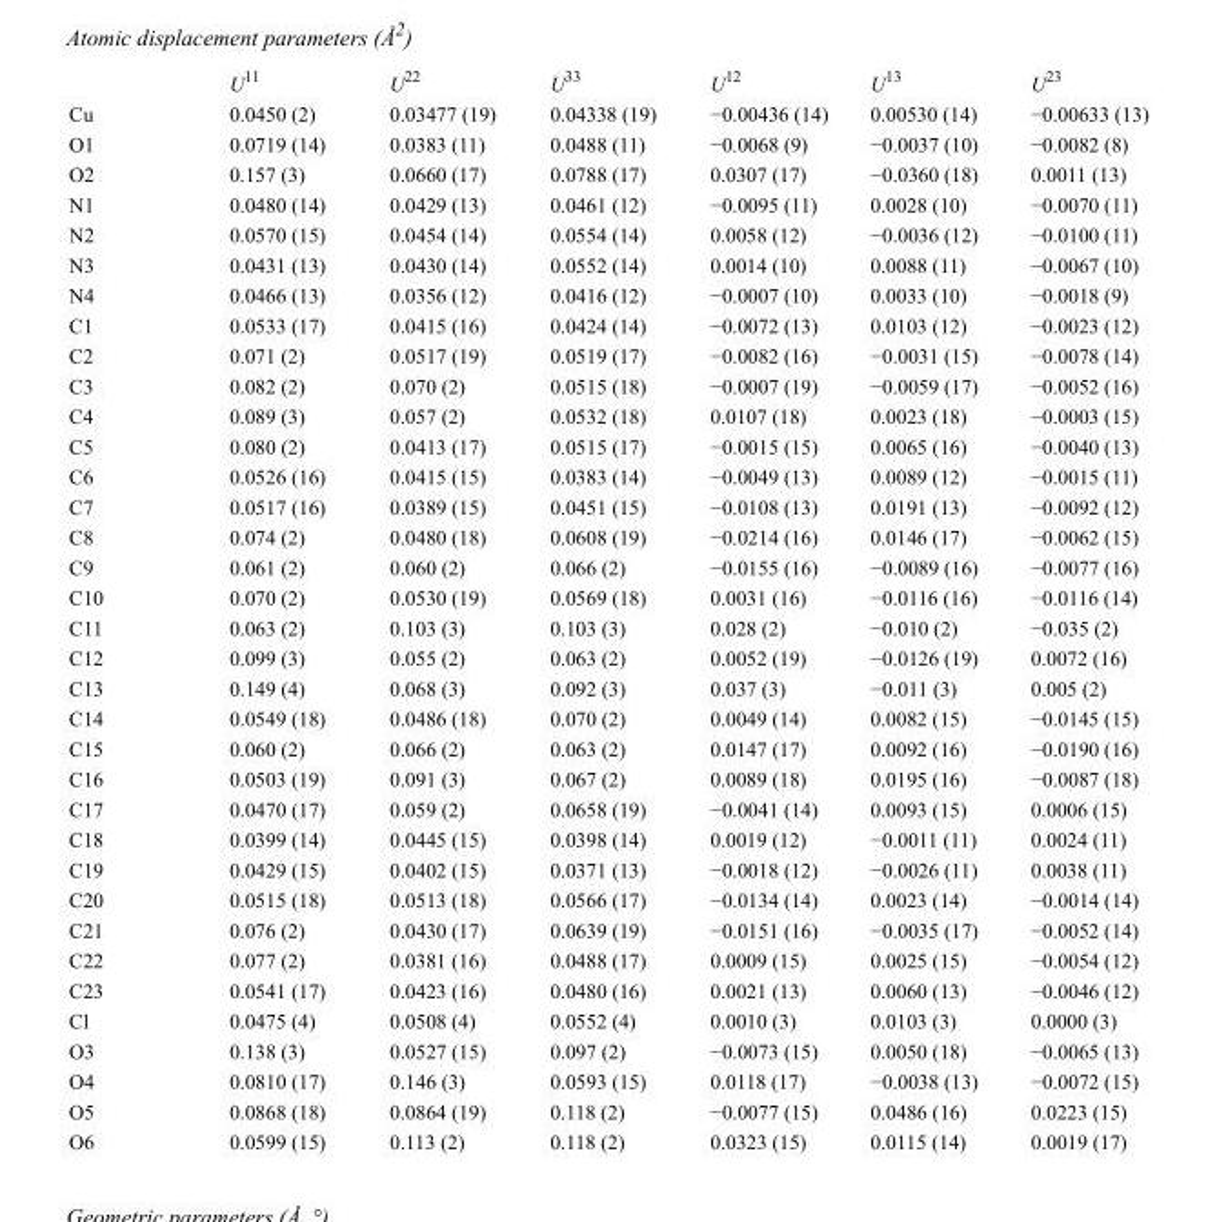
<table><thead><tr><td></td><td>U<sup>11</sup></td><td>U<sup>22</sup></td><td>U<sup>33</sup></td><td>U<sup>12</sup></td><td>U<sup>13</sup></td><td>U<sup>23</sup></td></tr></thead><tbody><tr><td>Cu</td><td>0.0450 (2)</td><td>0.03477 (19)</td><td>0.04338 (19)</td><td>−0.00436 (14)</td><td>0.00530 (14)</td><td>−0.00633 (13)</td></tr><tr><td>O1</td><td>0.0719 (14)</td><td>0.0383 (11)</td><td>0.0488 (11)</td><td>−0.0068 (9)</td><td>−0.0037 (10)</td><td>−0.0082 (8)</td></tr><tr><td>O2</td><td>0.157 (3)</td><td>0.0660 (17)</td><td>0.0788 (17)</td><td>0.0307 (17)</td><td>−0.0360 (18)</td><td>0.0011 (13)</td></tr><tr><td>N1</td><td>0.0480 (14)</td><td>0.0429 (13)</td><td>0.0461 (12)</td><td>−0.0095 (11)</td><td>0.0028 (10)</td><td>−0.0070 (11)</td></tr><tr><td>N2</td><td>0.0570 (15)</td><td>0.0454 (14)</td><td>0.0554 (14)</td><td>0.0058 (12)</td><td>−0.0036 (12)</td><td>−0.0100 (11)</td></tr><tr><td>N3</td><td>0.0431 (13)</td><td>0.0430 (14)</td><td>0.0552 (14)</td><td>0.0014 (10)</td><td>0.0088 (11)</td><td>−0.0067 (10)</td></tr><tr><td>N4</td><td>0.0466 (13)</td><td>0.0356 (12)</td><td>0.0416 (12)</td><td>−0.0007 (10)</td><td>0.0033 (10)</td><td>−0.0018 (9)</td></tr><tr><td>C1</td><td>0.0533 (17)</td><td>0.0415 (16)</td><td>0.0424 (14)</td><td>−0.0072 (13)</td><td>0.0103 (12)</td><td>−0.0023 (12)</td></tr><tr><td>C2</td><td>0.071 (2)</td><td>0.0517 (19)</td><td>0.0519 (17)</td><td>−0.0082 (16)</td><td>−0.0031 (15)</td><td>−0.0078 (14)</td></tr><tr><td>C3</td><td>0.082 (2)</td><td>0.070 (2)</td><td>0.0515 (18)</td><td>−0.0007 (19)</td><td>−0.0059 (17)</td><td>−0.0052 (16)</td></tr><tr><td>C4</td><td>0.089 (3)</td><td>0.057 (2)</td><td>0.0532 (18)</td><td>0.0107 (18)</td><td>0.0023 (18)</td><td>−0.0003 (15)</td></tr><tr><td>C5</td><td>0.080 (2)</td><td>0.0413 (17)</td><td>0.0515 (17)</td><td>−0.0015 (15)</td><td>0.0065 (16)</td><td>−0.0040 (13)</td></tr><tr><td>C6</td><td>0.0526 (16)</td><td>0.0415 (15)</td><td>0.0383 (14)</td><td>−0.0049 (13)</td><td>0.0089 (12)</td><td>−0.0015 (11)</td></tr><tr><td>C7</td><td>0.0517 (16)</td><td>0.0389 (15)</td><td>0.0451 (15)</td><td>−0.0108 (13)</td><td>0.0191 (13)</td><td>−0.0092 (12)</td></tr><tr><td>C8</td><td>0.074 (2)</td><td>0.0480 (18)</td><td>0.0608 (19)</td><td>−0.0214 (16)</td><td>0.0146 (17)</td><td>−0.0062 (15)</td></tr><tr><td>C9</td><td>0.061 (2)</td><td>0.060 (2)</td><td>0.066 (2)</td><td>−0.0155 (16)</td><td>−0.0089 (16)</td><td>−0.0077 (16)</td></tr><tr><td>C10</td><td>0.070 (2)</td><td>0.0530 (19)</td><td>0.0569 (18)</td><td>0.0031 (16)</td><td>−0.0116 (16)</td><td>−0.0116 (14)</td></tr><tr><td>C11</td><td>0.063 (2)</td><td>0.103 (3)</td><td>0.103 (3)</td><td>0.028 (2)</td><td>−0.010 (2)</td><td>−0.035 (2)</td></tr><tr><td>C12</td><td>0.099 (3)</td><td>0.055 (2)</td><td>0.063 (2)</td><td>0.0052 (19)</td><td>−0.0126 (19)</td><td>0.0072 (16)</td></tr><tr><td>C13</td><td>0.149 (4)</td><td>0.068 (3)</td><td>0.092 (3)</td><td>0.037 (3)</td><td>−0.011 (3)</td><td>0.005 (2)</td></tr><tr><td>C14</td><td>0.0549 (18)</td><td>0.0486 (18)</td><td>0.070 (2)</td><td>0.0049 (14)</td><td>0.0082 (15)</td><td>−0.0145 (15)</td></tr><tr><td>C15</td><td>0.060 (2)</td><td>0.066 (2)</td><td>0.063 (2)</td><td>0.0147 (17)</td><td>0.0092 (16)</td><td>−0.0190 (16)</td></tr><tr><td>C16</td><td>0.0503 (19)</td><td>0.091 (3)</td><td>0.067 (2)</td><td>0.0089 (18)</td><td>0.0195 (16)</td><td>−0.0087 (18)</td></tr><tr><td>C17</td><td>0.0470 (17)</td><td>0.059 (2)</td><td>0.0658 (19)</td><td>−0.0041 (14)</td><td>0.0093 (15)</td><td>0.0006 (15)</td></tr><tr><td>C18</td><td>0.0399 (14)</td><td>0.0445 (15)</td><td>0.0398 (14)</td><td>0.0019 (12)</td><td>−0.0011 (11)</td><td>0.0024 (11)</td></tr><tr><td>C19</td><td>0.0429 (15)</td><td>0.0402 (15)</td><td>0.0371 (13)</td><td>−0.0018 (12)</td><td>−0.0026 (11)</td><td>0.0038 (11)</td></tr><tr><td>C20</td><td>0.0515 (18)</td><td>0.0513 (18)</td><td>0.0566 (17)</td><td>−0.0134 (14)</td><td>0.0023 (14)</td><td>−0.0014 (14)</td></tr><tr><td>C21</td><td>0.076 (2)</td><td>0.0430 (17)</td><td>0.0639 (19)</td><td>−0.0151 (16)</td><td>−0.0035 (17)</td><td>−0.0052 (14)</td></tr><tr><td>C22</td><td>0.077 (2)</td><td>0.0381 (16)</td><td>0.0488 (17)</td><td>0.0009 (15)</td><td>0.0025 (15)</td><td>−0.0054 (12)</td></tr><tr><td>C23</td><td>0.0541 (17)</td><td>0.0423 (16)</td><td>0.0480 (16)</td><td>0.0021 (13)</td><td>0.0060 (13)</td><td>−0.0046 (12)</td></tr><tr><td>Cl</td><td>0.0475 (4)</td><td>0.0508 (4)</td><td>0.0552 (4)</td><td>0.0010 (3)</td><td>0.0103 (3)</td><td>0.0000 (3)</td></tr><tr><td>O3</td><td>0.138 (3)</td><td>0.0527 (15)</td><td>0.097 (2)</td><td>−0.0073 (15)</td><td>0.0050 (18)</td><td>−0.0065 (13)</td></tr><tr><td>O4</td><td>0.0810 (17)</td><td>0.146 (3)</td><td>0.0593 (15)</td><td>0.0118 (17)</td><td>−0.0038 (13)</td><td>−0.0072 (15)</td></tr><tr><td>O5</td><td>0.0868 (18)</td><td>0.0864 (19)</td><td>0.118 (2)</td><td>−0.0077 (15)</td><td>0.0486 (16)</td><td>0.0223 (15)</td></tr><tr><td>O6</td><td>0.0599 (15)</td><td>0.113 (2)</td><td>0.118 (2)</td><td>0.0323 (15)</td><td>0.0115 (14)</td><td>0.0019 (17)</td></tr></tbody></table>